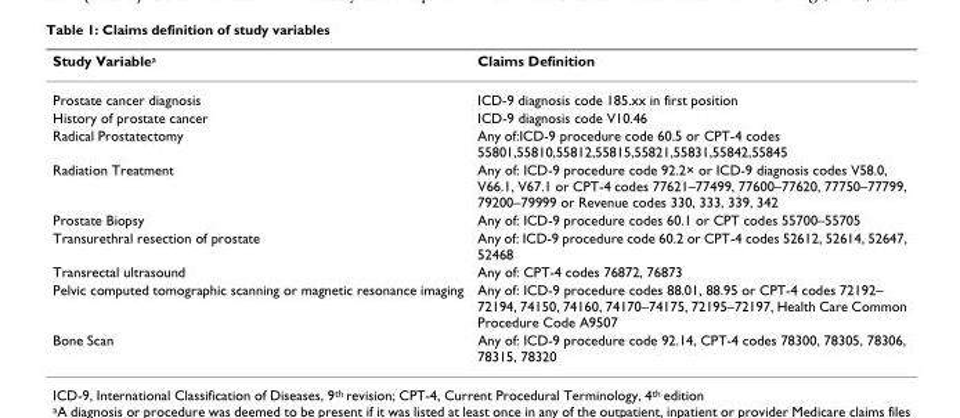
<table><thead><tr><td>Study Variable<sup>a</sup></td><td>Claims Definition</td></tr></thead><tbody><tr><td>Prostate cancer diagnosis</td><td>ICD-9 diagnosis code 185.xx in first position</td></tr><tr><td>History of prostate cancer</td><td>ICD-9 diagnosis code V10.46</td></tr><tr><td>Radical Prostatectomy</td><td>Any of:ICD-9 procedure code 60.5 or CPT-4 codes 55801,55810,55812,55815,55821,55831,55842,55845</td></tr><tr><td>Radiation Treatment</td><td>Any of: ICD-9 procedure code 92.2× or ICD-9 diagnosis codes V58.0, V66.1, V67.1 or CPT-4 codes 77621–77499, 77600–77620, 77750–77799, 79200–79999 or Revenue codes 330, 333, 339, 342</td></tr><tr><td>Prostate Biopsy</td><td>Any of: ICD-9 procedure codes 60.1 or CPT codes 55700–55705</td></tr><tr><td>Transurethral resection of prostate</td><td>Any of: ICD-9 procedure code 60.2 or CPT-4 codes 52612, 52614, 52647, 52468</td></tr><tr><td>Transrectal ultrasound</td><td>Any of: CPT-4 codes 76872, 76873</td></tr><tr><td>Pelvic computed tomographic scanning or magnetic resonance imaging</td><td>Any of: ICD-9 procedure codes 88.01, 88.95 or CPT-4 codes 72192– 72194, 74150, 74160, 74170–74175, 72195–72197, Health Care Common Procedure Code A9507</td></tr><tr><td>Bone Scan</td><td>Any of: ICD-9 procedure code 92.14, CPT-4 codes 78300, 78305, 78306, 78315, 78320</td></tr></tbody></table>